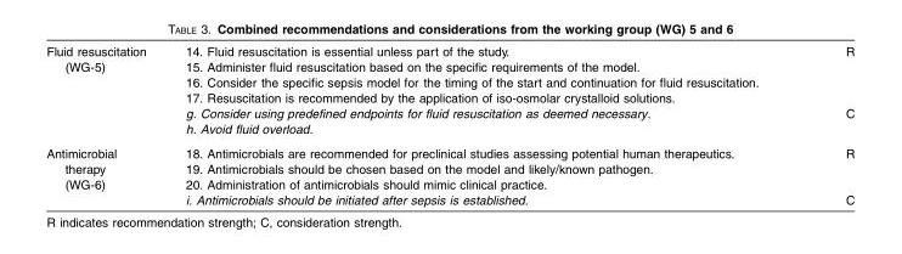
<table><tbody><tr><td rowspan="6">Fluid resuscitation (WG-5)</td><td>14. Fluid resuscitation is essential unless part of the study.</td><td>R</td></tr><tr><td>15. Administer fluid resuscitation based on the specific requirements of the model.</td><td></td></tr><tr><td>16. Consider the specific sepsis model for the timing of the start and continuation for fluid resuscitation.</td><td></td></tr><tr><td>17. Resuscitation is recommended by the application of iso-osmolar crystalloid solutions.</td><td></td></tr><tr><td>g. Consider using predefined endpoints for fluid resuscitation as deemed necessary.</td><td>C</td></tr><tr><td>h. Avoid fluid overload.</td><td></td></tr><tr><td rowspan="4">Antimicrobial therapy (WG-6)</td><td>18. Antimicrobials are recommended for preclinical studies assessing potential human therapeutics.</td><td>R</td></tr><tr><td>19. Antimicrobials should be chosen based on the model and likely/known pathogen.</td><td></td></tr><tr><td>20. Administration of antimicrobials should mimic clinical practice.</td><td></td></tr><tr><td>i. Antimicrobials should be initiated after sepsis is established.</td><td>C</td></tr></tbody></table>